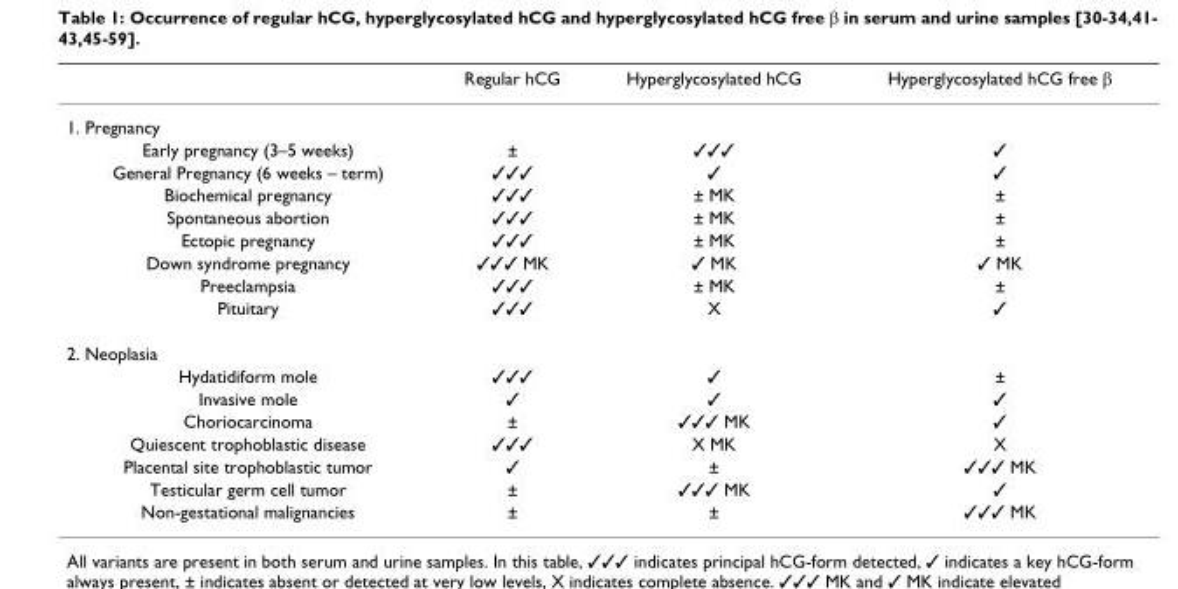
<table><thead><tr><td></td><td>Regular hCG</td><td>Hyperglycosylated hCG</td><td>Hyperglycosylated hCG free β</td></tr></thead><tbody><tr><td colspan="4">1. Pregnancy</td></tr><tr><td>Early pregnancy (3–5 weeks)</td><td>±</td><td>✓✓✓</td><td>✓</td></tr><tr><td>General Pregnancy (6 weeks – term)</td><td>✓✓✓</td><td>✓</td><td>✓</td></tr><tr><td>Biochemical pregnancy</td><td>✓✓✓</td><td>± MK</td><td>±</td></tr><tr><td>Spontaneous abortion</td><td>✓✓✓</td><td>± MK</td><td>±</td></tr><tr><td>Ectopic pregnancy</td><td>✓✓✓</td><td>± MK</td><td>±</td></tr><tr><td>Down syndrome pregnancy</td><td>✓✓✓ MK</td><td>✓ MK</td><td>✓ MK</td></tr><tr><td>Preeclampsia</td><td>✓✓✓</td><td>± MK</td><td>±</td></tr><tr><td>Pituitary</td><td>✓✓✓</td><td>X</td><td>✓</td></tr><tr><td colspan="4">2. Neoplasia</td></tr><tr><td>Hydatidiform mole</td><td>✓✓✓</td><td>✓</td><td>±</td></tr><tr><td>Invasive mole</td><td>✓</td><td>✓</td><td>✓</td></tr><tr><td>Choriocarcinoma</td><td>±</td><td>✓✓✓ MK</td><td>✓</td></tr><tr><td>Quiescent trophoblastic disease</td><td>✓✓✓</td><td>X MK</td><td>X</td></tr><tr><td>Placental site trophoblastic tumor</td><td>✓</td><td>±</td><td>✓✓✓ MK</td></tr><tr><td>Testicular germ cell tumor</td><td>±</td><td>✓✓✓ MK</td><td>✓</td></tr><tr><td>Non-gestational malignancies</td><td>±</td><td>±</td><td>✓✓✓ MK</td></tr></tbody></table>